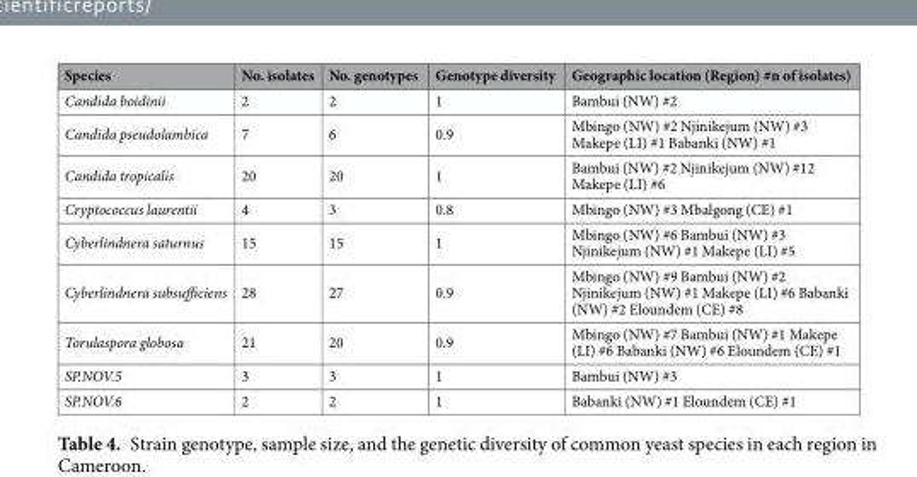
<table><thead><tr><td>Species</td><td>No. isolates</td><td>No. genotypes</td><td>Genotype diversity</td><td>Geographic location (Region) #n of isolates)</td></tr></thead><tbody><tr><td>Candida boidinii</td><td>2</td><td>2</td><td>1</td><td>Bambui (NW) #2</td></tr><tr><td>Candida pseudolambica</td><td>7</td><td>6</td><td>0.9</td><td>Mbingo (NW) #2 Njinikejum (NW) #3 Makepe (LI) #1 Babanki (NW) #1</td></tr><tr><td>Candida tropicalis</td><td>20</td><td>20</td><td>1</td><td>Bambui (NW) #2 Njinikejum (NW) #12 Makepe (LI) #6</td></tr><tr><td>Cryptococcus laurentii</td><td>4</td><td>3</td><td>0.8</td><td>Mbingo (NW) #3 Mbalgong (CE) #1</td></tr><tr><td>Cyberlindnera saturnus</td><td>15</td><td>15</td><td>1</td><td>Mbingo (NW) #6 Bambui (NW) #3 Njinikejum (NW) #1 Makepe (LI) #5</td></tr><tr><td>Cyberlindnera subsufficiens</td><td>28</td><td>27</td><td>0.9</td><td>Mbingo (NW) #9 Bambui (NW) #2 Njinikejum (NW) #1 Makepe (LI) #6 Babanki (NW) #2 Eloundem (CE) #8</td></tr><tr><td>Torulaspora globosa</td><td>21</td><td>20</td><td>0.9</td><td>Mbingo (NW) #7 Bambui (NW) #1 Makepe (LI) #6 Babanki (NW) #6 Eloundem (CE) #1</td></tr><tr><td>SP.NOV.5</td><td>3</td><td>3</td><td>1</td><td>Bambui (NW) #3</td></tr><tr><td>SP.NOV.6</td><td>2</td><td>2</td><td>1</td><td>Babanki (NW) #1 Eloundem (CE) #1</td></tr></tbody></table>